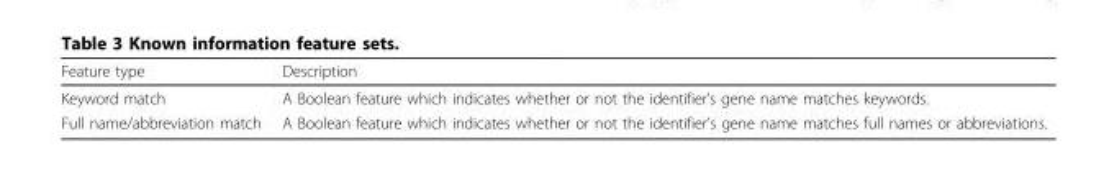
<table><thead><tr><td>Feature type</td><td>Description</td></tr></thead><tbody><tr><td>Keyword match</td><td>A Boolean feature which indicates whether or not the identifier’s gene name matches keywords.</td></tr><tr><td>Full name/abbreviation match</td><td>A Boolean feature which indicates whether or not the identifier’s gene name matches full names or abbreviations.</td></tr></tbody></table>